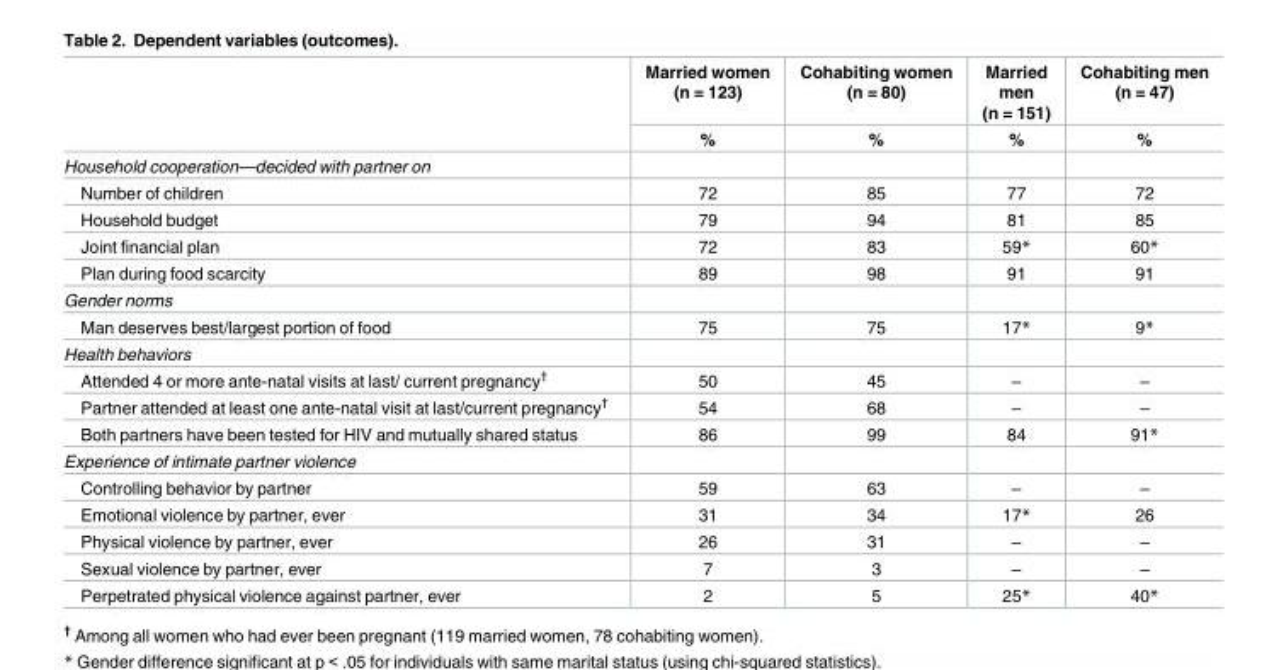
<table><thead><tr><td rowspan="2"></td><td rowspan="2">Married women (n = 123) %</td><td rowspan="2">Cohabiting women (n = 80) %</td><td rowspan="2">Married men (n = 151) %</td><td rowspan="2">Cohabiting men (n = 47) %</td></tr><tr></tr></thead><tbody><tr><td colspan="5">Household cooperation—decided with partner on</td></tr><tr><td>Number of children</td><td>72</td><td>85</td><td>77</td><td>72</td></tr><tr><td>Household budget</td><td>79</td><td>94</td><td>81</td><td>85</td></tr><tr><td>Joint financial plan</td><td>72</td><td>83</td><td>59*</td><td>60*</td></tr><tr><td>Plan during food scarcity</td><td>89</td><td>98</td><td>91</td><td>91</td></tr><tr><td colspan="5">Gender norms</td></tr><tr><td>Man deserves best/largest portion of food</td><td>75</td><td>75</td><td>17*</td><td>9*</td></tr><tr><td colspan="5">Health behaviors</td></tr><tr><td>Attended 4 or more ante-natal visits at last/ current pregnancy<sup>†</sup></td><td>50</td><td>45</td><td>–</td><td>–</td></tr><tr><td>Partner attended at least one ante-natal visit at last/current pregnancy<sup>†</sup></td><td>54</td><td>68</td><td>–</td><td>–</td></tr><tr><td>Both partners have been tested for HIV and mutually shared status</td><td>86</td><td>99</td><td>84</td><td>91*</td></tr><tr><td colspan="5">Experience of intimate partner violence</td></tr><tr><td>Controlling behavior by partner</td><td>59</td><td>63</td><td>–</td><td>–</td></tr><tr><td>Emotional violence by partner, ever</td><td>31</td><td>34</td><td>17*</td><td>26</td></tr><tr><td>Physical violence by partner, ever</td><td>26</td><td>31</td><td>–</td><td>–</td></tr><tr><td>Sexual violence by partner, ever</td><td>7</td><td>3</td><td>–</td><td>–</td></tr><tr><td>Perpetrated physical violence against partner, ever</td><td>2</td><td>5</td><td>25*</td><td>40*</td></tr></tbody></table>